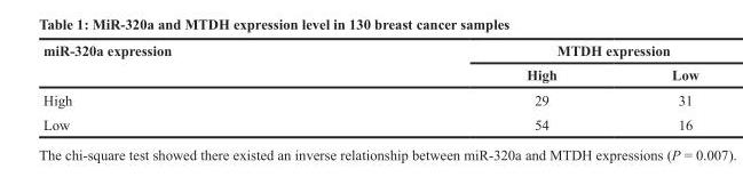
<table><thead><tr><td rowspan="2">miR-320a expression</td><td colspan="2">MTDH expression</td></tr><tr><td>High</td><td>Low</td></tr></thead><tbody><tr><td>High</td><td>29</td><td>31</td></tr><tr><td>Low</td><td>54</td><td>16</td></tr></tbody></table>